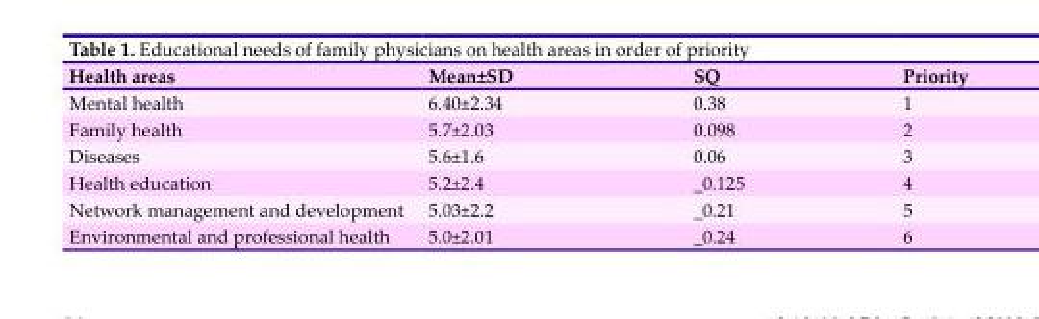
<table><thead><tr><td>Health areas</td><td>Mean±SD</td><td>SQ</td><td>Priority</td></tr></thead><tbody><tr><td>Mental health</td><td>6.40±2.34</td><td>0.38</td><td>1</td></tr><tr><td>Family health</td><td>5.7±2.03</td><td>0.098</td><td>2</td></tr><tr><td>Diseases</td><td>5.6±1.6</td><td>0.06</td><td>3</td></tr><tr><td>Health education</td><td>5.2±2.4</td><td>_0.125</td><td>4</td></tr><tr><td>Network management and development</td><td>5.03±2.2</td><td>_0.21</td><td>5</td></tr><tr><td>Environmental and professional health</td><td>5.0±2.01</td><td>_0.24</td><td>6</td></tr></tbody></table>